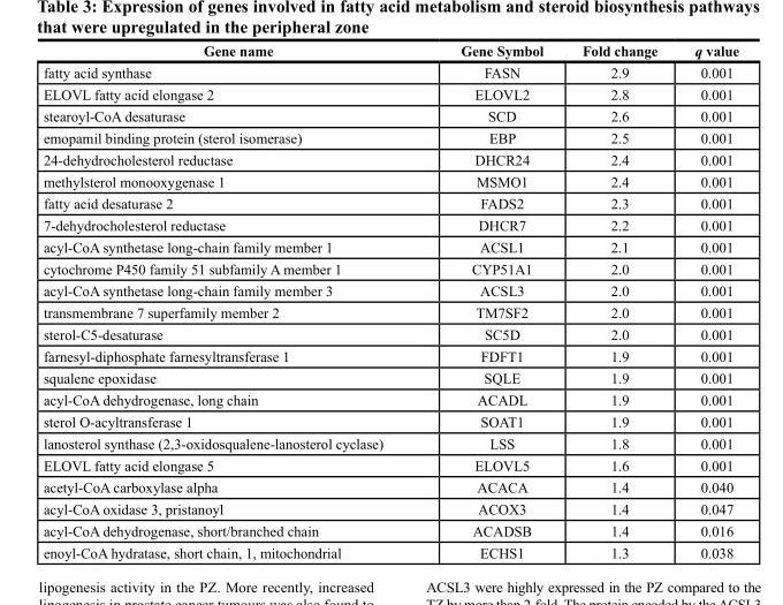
<table><thead><tr><td>Gene name</td><td>Gene Symbol</td><td>Fold change</td><td>q value</td></tr></thead><tbody><tr><td>fatty acid synthase</td><td>FASN</td><td>2.9</td><td>0.001</td></tr><tr><td>ELOVL fatty acid elongase 2</td><td>ELOVL2</td><td>2.8</td><td>0.001</td></tr><tr><td>stearoyl-CoA desaturase</td><td>SCD</td><td>2.6</td><td>0.001</td></tr><tr><td>emopamil binding protein (sterol isomerase)</td><td>EBP</td><td>2.5</td><td>0.001</td></tr><tr><td>24-dehydrocholesterol reductase</td><td>DHCR24</td><td>2.4</td><td>0.001</td></tr><tr><td>methylsterol monooxygenase 1</td><td>MSMO1</td><td>2.4</td><td>0.001</td></tr><tr><td>fatty acid desaturase 2</td><td>FADS2</td><td>2.3</td><td>0.001</td></tr><tr><td>7-dehydrocholesterol reductase</td><td>DHCR7</td><td>2.2</td><td>0.001</td></tr><tr><td>acyl-CoA synthetase long-chain family member 1</td><td>ACSL1</td><td>2.1</td><td>0.001</td></tr><tr><td>cytochrome P450 family 51 subfamily A member 1</td><td>CYP51A1</td><td>2.0</td><td>0.001</td></tr><tr><td>acyl-CoA synthetase long-chain family member 3</td><td>ACSL3</td><td>2.0</td><td>0.001</td></tr><tr><td>transmembrane 7 superfamily member 2</td><td>TM7SF2</td><td>2.0</td><td>0.001</td></tr><tr><td>sterol-C5-desaturase</td><td>SC5D</td><td>2.0</td><td>0.001</td></tr><tr><td>farnesyl-diphosphate farnesyltransferase 1</td><td>FDFT1</td><td>1.9</td><td>0.001</td></tr><tr><td>squalene epoxidase</td><td>SQLE</td><td>1.9</td><td>0.001</td></tr><tr><td>acyl-CoA dehydrogenase, long chain</td><td>ACADL</td><td>1.9</td><td>0.001</td></tr><tr><td>sterol O-acyltransferase 1</td><td>SOAT1</td><td>1.9</td><td>0.001</td></tr><tr><td>lanosterol synthase (2,3-oxidosqualene-lanosterol cyclase)</td><td>LSS</td><td>1.8</td><td>0.001</td></tr><tr><td>ELOVL fatty acid elongase 5</td><td>ELOVL5</td><td>1.6</td><td>0.001</td></tr><tr><td>acetyl-CoA carboxylase alpha</td><td>ACACA</td><td>1.4</td><td>0.040</td></tr><tr><td>acyl-CoA oxidase 3, pristanoyl</td><td>ACOX3</td><td>1.4</td><td>0.047</td></tr><tr><td>acyl-CoA dehydrogenase, short/branched chain</td><td>ACADSB</td><td>1.4</td><td>0.016</td></tr><tr><td>enoyl-CoA hydratase, short chain, 1, mitochondrial</td><td>ECHS1</td><td>1.3</td><td>0.038</td></tr></tbody></table>